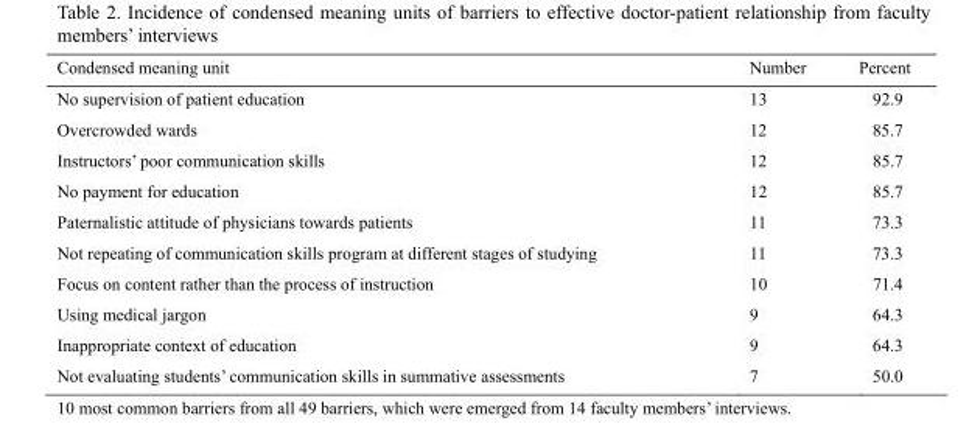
<table><thead><tr><td>Condensed meaning unit</td><td>Number</td><td>Percent</td></tr></thead><tbody><tr><td>No supervision of patient education</td><td>13</td><td>92.9</td></tr><tr><td>Overcrowded wards</td><td>12</td><td>85.7</td></tr><tr><td>Instructors’ poor communication skills</td><td>12</td><td>85.7</td></tr><tr><td>No payment for education</td><td>12</td><td>85.7</td></tr><tr><td>Paternalistic attitude of physicians towards patients</td><td>11</td><td>73.3</td></tr><tr><td>Not repeating of communication skills program at different stages of studying</td><td>11</td><td>73.3</td></tr><tr><td>Focus on content rather than the process of instruction</td><td>10</td><td>71.4</td></tr><tr><td>Using medical jargon</td><td>9</td><td>64.3</td></tr><tr><td>Inappropriate context of education</td><td>9</td><td>64.3</td></tr><tr><td>Not evaluating students’ communication skills in summative assessments</td><td>7</td><td>50.0</td></tr></tbody></table>